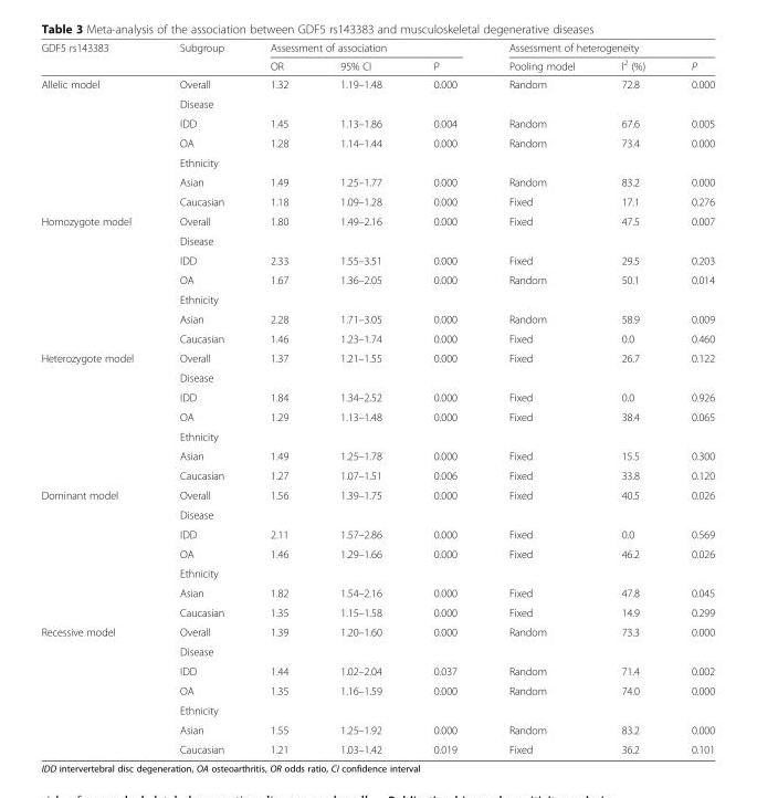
<table><thead><tr><td rowspan="2">GDF5 rs143383</td><td rowspan="2">Subgroup</td><td colspan="3">Assessment of association</td><td colspan="3">Assessment of heterogeneity</td></tr><tr><td>OR</td><td>95% CI</td><td>P</td><td>Pooling model</td><td>I<sup>2</sup> (%)</td><td>P</td></tr></thead><tbody><tr><td rowspan="7">Allelic model</td><td>Overall</td><td>1.32</td><td>1.19–1.48</td><td>0.000</td><td>Random</td><td>72.8</td><td>0.000</td></tr><tr><td colspan="7">Disease</td></tr><tr><td>IDD</td><td>1.45</td><td>1.13–1.86</td><td>0.004</td><td>Random</td><td>67.6</td><td>0.005</td></tr><tr><td>OA</td><td>1.28</td><td>1.14–1.44</td><td>0.000</td><td>Random</td><td>73.4</td><td>0.000</td></tr><tr><td colspan="7">Ethnicity</td></tr><tr><td>Asian</td><td>1.49</td><td>1.25–1.77</td><td>0.000</td><td>Random</td><td>83.2</td><td>0.000</td></tr><tr><td>Caucasian</td><td>1.18</td><td>1.09–1.28</td><td>0.000</td><td>Fixed</td><td>17.1</td><td>0.276</td></tr><tr><td rowspan="7">Homozygote model</td><td>Overall</td><td>1.80</td><td>1.49–2.16</td><td>0.000</td><td>Fixed</td><td>47.5</td><td>0.007</td></tr><tr><td colspan="7">Disease</td></tr><tr><td>IDD</td><td>2.33</td><td>1.55–3.51</td><td>0.000</td><td>Fixed</td><td>29.5</td><td>0.203</td></tr><tr><td>OA</td><td>1.67</td><td>1.36–2.05</td><td>0.000</td><td>Random</td><td>50.1</td><td>0.014</td></tr><tr><td colspan="7">Ethnicity</td></tr><tr><td>Asian</td><td>2.28</td><td>1.71–3.05</td><td>0.000</td><td>Random</td><td>58.9</td><td>0.009</td></tr><tr><td>Caucasian</td><td>1.46</td><td>1.23–1.74</td><td>0.000</td><td>Fixed</td><td>0.0</td><td>0.460</td></tr><tr><td rowspan="7">Heterozygote model</td><td>Overall</td><td>1.37</td><td>1.21–1.55</td><td>0.000</td><td>Fixed</td><td>26.7</td><td>0.122</td></tr><tr><td colspan="7">Disease</td></tr><tr><td>IDD</td><td>1.84</td><td>1.34–2.52</td><td>0.000</td><td>Fixed</td><td>0.0</td><td>0.926</td></tr><tr><td>OA</td><td>1.29</td><td>1.13–1.48</td><td>0.000</td><td>Fixed</td><td>38.4</td><td>0.065</td></tr><tr><td colspan="7">Ethnicity</td></tr><tr><td>Asian</td><td>1.49</td><td>1.25–1.78</td><td>0.000</td><td>Fixed</td><td>15.5</td><td>0.300</td></tr><tr><td>Caucasian</td><td>1.27</td><td>1.07–1.51</td><td>0.006</td><td>Fixed</td><td>33.8</td><td>0.120</td></tr><tr><td rowspan="7">Dominant model</td><td>Overall</td><td>1.56</td><td>1.39–1.75</td><td>0.000</td><td>Fixed</td><td>40.5</td><td>0.026</td></tr><tr><td colspan="7">Disease</td></tr><tr><td>IDD</td><td>2.11</td><td>1.57–2.86</td><td>0.000</td><td>Fixed</td><td>0.0</td><td>0.569</td></tr><tr><td>OA</td><td>1.46</td><td>1.29–1.66</td><td>0.000</td><td>Fixed</td><td>46.2</td><td>0.026</td></tr><tr><td colspan="7">Ethnicity</td></tr><tr><td>Asian</td><td>1.82</td><td>1.54–2.16</td><td>0.000</td><td>Fixed</td><td>47.8</td><td>0.045</td></tr><tr><td>Caucasian</td><td>1.35</td><td>1.15–1.58</td><td>0.000</td><td>Fixed</td><td>14.9</td><td>0.299</td></tr><tr><td rowspan="7">Recessive model</td><td>Overall</td><td>1.39</td><td>1.20–1.60</td><td>0.000</td><td>Random</td><td>73.3</td><td>0.000</td></tr><tr><td colspan="7">Disease</td></tr><tr><td>IDD</td><td>1.44</td><td>1.02–2.04</td><td>0.037</td><td>Random</td><td>71.4</td><td>0.002</td></tr><tr><td>OA</td><td>1.35</td><td>1.16–1.59</td><td>0.000</td><td>Random</td><td>74.0</td><td>0.000</td></tr><tr><td colspan="7">Ethnicity</td></tr><tr><td>Asian</td><td>1.55</td><td>1.25–1.92</td><td>0.000</td><td>Random</td><td>83.2</td><td>0.000</td></tr><tr><td>Caucasian</td><td>1.21</td><td>1.03–1.42</td><td>0.019</td><td>Fixed</td><td>36.2</td><td>0.101</td></tr></tbody></table>